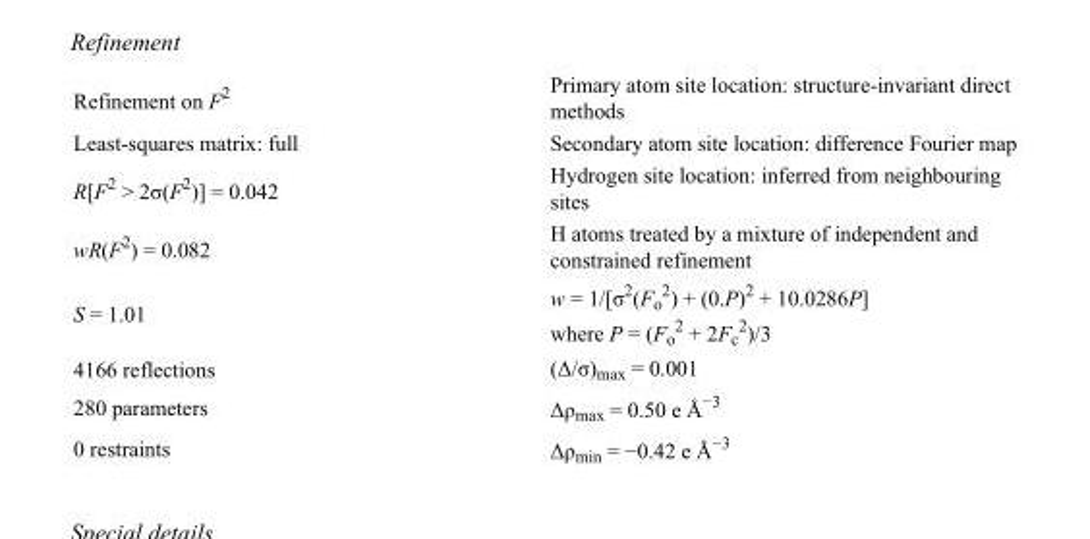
<table><tbody><tr><td>Refinement on F<sup>2</sup></td><td>Primary atom site location: structure-invariant direct methods</td></tr><tr><td>Least-squares matrix: full</td><td>Secondary atom site location: difference Fourier map</td></tr><tr><td>R[F<sup>2</sup> &gt; 2σ(F<sup>2</sup>)] = 0.042</td><td>Hydrogen site location: inferred from neighbouring sites</td></tr><tr><td>wR(F<sup>2</sup>) = 0.082</td><td>H atoms treated by a mixture of independent and constrained refinement</td></tr><tr><td>S = 1.01</td><td>w = 1/[σ<sup>2</sup>(F<sub>o</sub> <sup>2</sup>) + (0.P)<sup>2</sup> + 10.0286P] where P = (F<sub>o</sub> <sup>2</sup> + 2F<sub>c</sub> <sup>2</sup>)/3</td></tr><tr><td>4166 reflections</td><td>(Δ/σ)<sub>max</sub> = 0.001</td></tr><tr><td>280 parameters</td><td>Δρ<sub>max</sub> = 0.50 e Å<sup>−3</sup></td></tr><tr><td>0 restraints</td><td>Δρ<sub>min</sub> = −0.42 e Å<sup>−3</sup></td></tr></tbody></table>